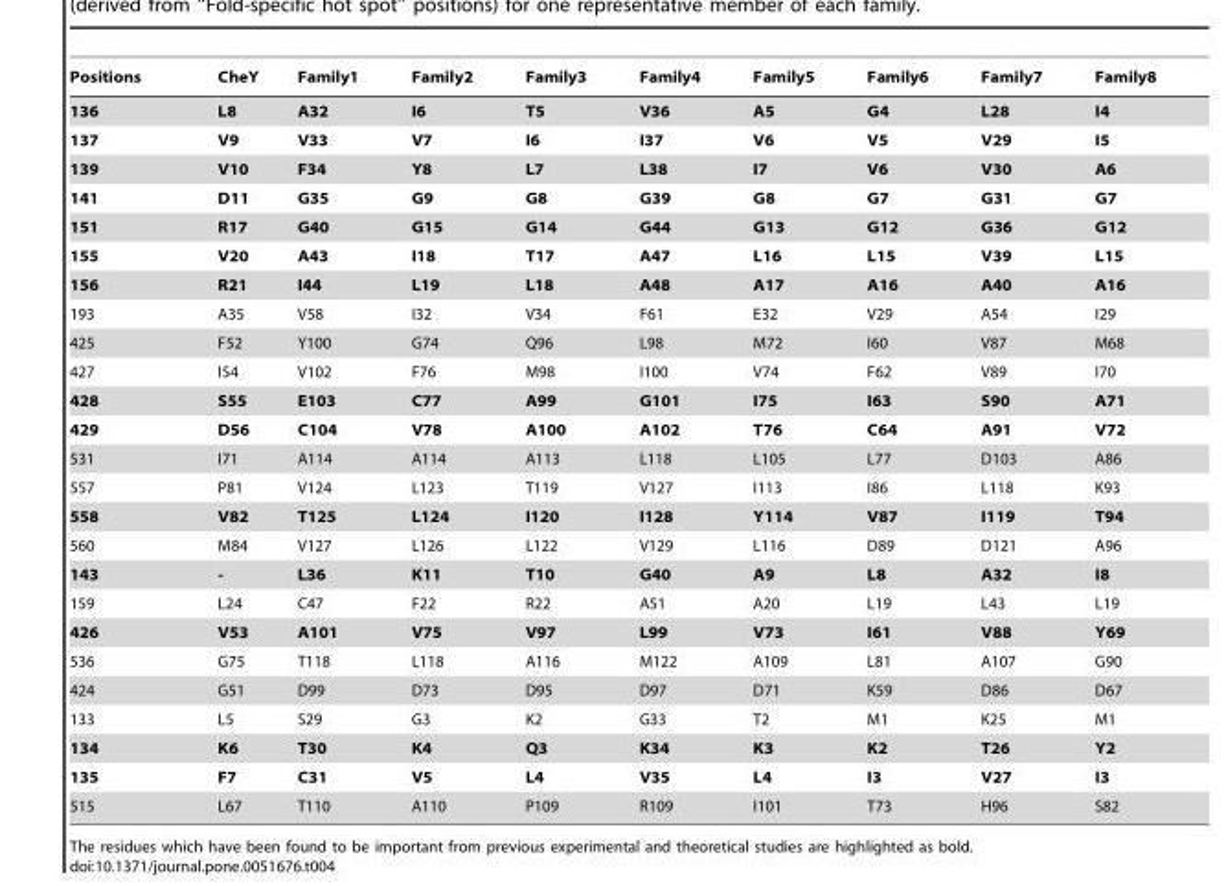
<table><thead><tr><td>Positions</td><td>CheY</td><td>Family1</td><td>Family2</td><td>Family3</td><td>Family4</td><td>Family5</td><td>Family6</td><td>Family7</td><td>Family8</td></tr></thead><tbody><tr><td>136</td><td>L8</td><td>A32</td><td>I6</td><td>T5</td><td>V36</td><td>A5</td><td>G4</td><td>L28</td><td>I4</td></tr><tr><td>137</td><td>V9</td><td>V33</td><td>V7</td><td>I6</td><td>I37</td><td>V6</td><td>V5</td><td>V29</td><td>I5</td></tr><tr><td>139</td><td>V10</td><td>F34</td><td>Y8</td><td>L7</td><td>L38</td><td>I7</td><td>V6</td><td>V30</td><td>A6</td></tr><tr><td>141</td><td>D11</td><td>G35</td><td>G9</td><td>G8</td><td>G39</td><td>G8</td><td>G7</td><td>G31</td><td>G7</td></tr><tr><td>151</td><td>R17</td><td>G40</td><td>G15</td><td>G14</td><td>G44</td><td>G13</td><td>G12</td><td>G36</td><td>G12</td></tr><tr><td>155</td><td>V20</td><td>A43</td><td>I18</td><td>T17</td><td>A47</td><td>L16</td><td>L15</td><td>V39</td><td>L15</td></tr><tr><td>156</td><td>R21</td><td>I44</td><td>L19</td><td>L18</td><td>A48</td><td>A17</td><td>A16</td><td>A40</td><td>A16</td></tr><tr><td>193</td><td>A35</td><td>V58</td><td>I32</td><td>V34</td><td>F61</td><td>E32</td><td>V29</td><td>A54</td><td>I29</td></tr><tr><td>425</td><td>F52</td><td>Y100</td><td>G74</td><td>Q96</td><td>L98</td><td>M72</td><td>I60</td><td>V87</td><td>M68</td></tr><tr><td>427</td><td>I54</td><td>V102</td><td>F76</td><td>M98</td><td>I100</td><td>V74</td><td>F62</td><td>V89</td><td>I70</td></tr><tr><td>428</td><td>S55</td><td>E103</td><td>C77</td><td>A99</td><td>G101</td><td>I75</td><td>I63</td><td>S90</td><td>A71</td></tr><tr><td>429</td><td>D56</td><td>C104</td><td>V78</td><td>A100</td><td>A102</td><td>T76</td><td>C64</td><td>A91</td><td>V72</td></tr><tr><td>531</td><td>I71</td><td>A114</td><td>A114</td><td>A113</td><td>L118</td><td>L105</td><td>L77</td><td>D103</td><td>A86</td></tr><tr><td>557</td><td>P81</td><td>V124</td><td>L123</td><td>T119</td><td>V127</td><td>I113</td><td>I86</td><td>L118</td><td>K93</td></tr><tr><td>558</td><td>V82</td><td>T125</td><td>L124</td><td>I120</td><td>I128</td><td>Y114</td><td>V87</td><td>I119</td><td>T94</td></tr><tr><td>560</td><td>M84</td><td>V127</td><td>L126</td><td>L122</td><td>V129</td><td>L116</td><td>D89</td><td>D121</td><td>A96</td></tr><tr><td>143</td><td>-</td><td>L36</td><td>K11</td><td>T10</td><td>G40</td><td>A9</td><td>L8</td><td>A32</td><td>I8</td></tr><tr><td>159</td><td>L24</td><td>C47</td><td>F22</td><td>R22</td><td>A51</td><td>A20</td><td>L19</td><td>L43</td><td>L19</td></tr><tr><td>426</td><td>V53</td><td>A101</td><td>V75</td><td>V97</td><td>L99</td><td>V73</td><td>I61</td><td>V88</td><td>Y69</td></tr><tr><td>536</td><td>G75</td><td>T118</td><td>L118</td><td>A116</td><td>M122</td><td>A109</td><td>L81</td><td>A107</td><td>G90</td></tr><tr><td>424</td><td>G51</td><td>D99</td><td>D73</td><td>D95</td><td>D97</td><td>D71</td><td>K59</td><td>D86</td><td>D67</td></tr><tr><td>133</td><td>L5</td><td>S29</td><td>G3</td><td>K2</td><td>G33</td><td>T2</td><td>M1</td><td>K25</td><td>M1</td></tr><tr><td>134</td><td>K6</td><td>T30</td><td>K4</td><td>Q3</td><td>K34</td><td>K3</td><td>K2</td><td>T26</td><td>Y2</td></tr><tr><td>135</td><td>F7</td><td>C31</td><td>V5</td><td>L4</td><td>V35</td><td>L4</td><td>I3</td><td>V27</td><td>I3</td></tr><tr><td>515</td><td>L67</td><td>T110</td><td>A110</td><td>P109</td><td>R109</td><td>I101</td><td>T73</td><td>H96</td><td>S82</td></tr></tbody></table>